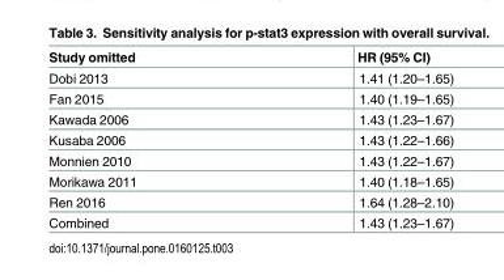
<table><thead><tr><td>Study omitted</td><td>HR (95% CI)</td></tr></thead><tbody><tr><td>Dobi 2013</td><td>1.41 (1.20–1.65)</td></tr><tr><td>Fan 2015</td><td>1.40 (1.19–1.65)</td></tr><tr><td>Kawada 2006</td><td>1.43 (1.23–1.67)</td></tr><tr><td>Kusaba 2006</td><td>1.43 (1.22–1.66)</td></tr><tr><td>Monnien 2010</td><td>1.43 (1.22–1.67)</td></tr><tr><td>Morikawa 2011</td><td>1.40 (1.18–1.65)</td></tr><tr><td>Ren 2016</td><td>1.64 (1.28–2.10)</td></tr><tr><td>Combined</td><td>1.43 (1.23–1.67)</td></tr></tbody></table>